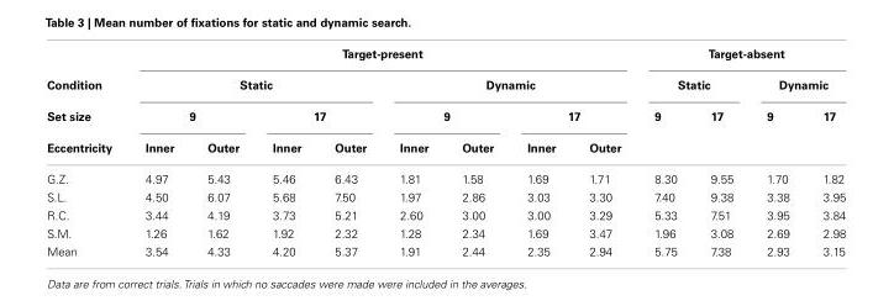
<table><thead><tr><td rowspan="4">Condition Set size Eccentricity</td><td colspan="8">Target-present</td><td colspan="4">Target-absent</td></tr><tr><td colspan="4">Static</td><td colspan="4">Dynamic</td><td colspan="2">Static</td><td colspan="2">Dynamic</td></tr><tr><td colspan="2">9</td><td colspan="2">17</td><td colspan="2">9</td><td colspan="2">17</td><td rowspan="2">9</td><td rowspan="2">17</td><td rowspan="2">9</td><td rowspan="2">17</td></tr><tr><td>Inner</td><td>Outer</td><td>Inner</td><td>Outer</td><td>Inner</td><td>Outer</td><td>Inner</td><td>Outer</td></tr></thead><tbody><tr><td>G.Z.</td><td>4.97</td><td>5.43</td><td>5.46</td><td>6.43</td><td>1.81</td><td>1.58</td><td>1.69</td><td>1.71</td><td>8.30</td><td>9.55</td><td>1.70</td><td>1.82</td></tr><tr><td>S.L.</td><td>4.50</td><td>6.07</td><td>5.68</td><td>7.50</td><td>1.97</td><td>2.86</td><td>3.03</td><td>3.30</td><td>7.40</td><td>9.38</td><td>3.38</td><td>3.95</td></tr><tr><td>R.C.</td><td>3.44</td><td>4.19</td><td>3.73</td><td>5.21</td><td>2.60</td><td>3.00</td><td>3.00</td><td>3.29</td><td>5.33</td><td>7.51</td><td>3.95</td><td>3.84</td></tr><tr><td>S.M.</td><td>1.26</td><td>1.62</td><td>1.92</td><td>2.32</td><td>1.28</td><td>2.34</td><td>1.69</td><td>3.47</td><td>1.96</td><td>3.08</td><td>2.69</td><td>2.98</td></tr><tr><td>Mean</td><td>3.54</td><td>4.33</td><td>4.20</td><td>5.37</td><td>1.91</td><td>2.44</td><td>2.35</td><td>2.94</td><td>5.75</td><td>7.38</td><td>2.93</td><td>3.15</td></tr></tbody></table>